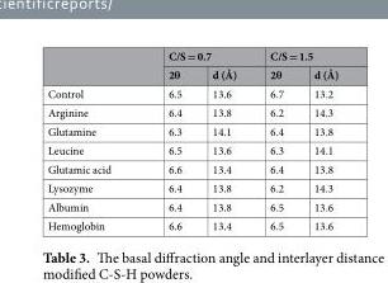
<table><thead><tr><td rowspan="2"></td><td colspan="2">C/S = 0.7</td><td colspan="2">C/S = 1.5</td></tr><tr><td>2θ</td><td>d (Å)</td><td>2θ</td><td>d (Å)</td></tr></thead><tbody><tr><td>Control</td><td>6.5</td><td>13.6</td><td>6.7</td><td>13.2</td></tr><tr><td>Arginine</td><td>6.4</td><td>13.8</td><td>6.2</td><td>14.3</td></tr><tr><td>Glutamine</td><td>6.3</td><td>14.1</td><td>6.4</td><td>13.8</td></tr><tr><td>Leucine</td><td>6.5</td><td>13.6</td><td>6.3</td><td>14.1</td></tr><tr><td>Glutamic acid</td><td>6.6</td><td>13.4</td><td>6.4</td><td>13.8</td></tr><tr><td>Lysozyme</td><td>6.4</td><td>13.8</td><td>6.2</td><td>14.3</td></tr><tr><td>Albumin</td><td>6.4</td><td>13.8</td><td>6.5</td><td>13.6</td></tr><tr><td>Hemoglobin</td><td>6.6</td><td>13.4</td><td>6.5</td><td>13.6</td></tr></tbody></table>